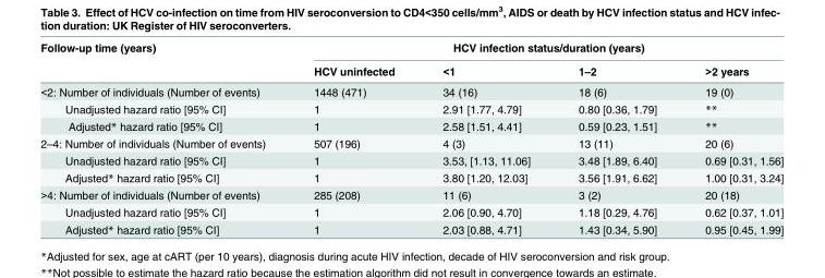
<table><thead><tr><td rowspan="2">Follow-up time (years)</td><td colspan="4">HCV infection status/duration (years)</td></tr><tr><td>HCV uninfected</td><td>&lt;1</td><td>1–2</td><td>&gt;2 years</td></tr></thead><tbody><tr><td>&lt;2: Number of individuals (Number of events)</td><td>1448 (471)</td><td>34 (16)</td><td>18 (6)</td><td>19 (0)</td></tr><tr><td>Unadjusted hazard ratio [95% CI]</td><td>1</td><td>2.91 [1.77, 4.79]</td><td>0.80 [0.36, 1.79]</td><td>**</td></tr><tr><td>Adjusted* hazard ratio [95% CI]</td><td>1</td><td>2.58 [1.51, 4.41]</td><td>0.59 [0.23, 1.51]</td><td>**</td></tr><tr><td>2–4: Number of individuals (Number of events)</td><td>507 (196)</td><td>4 (3)</td><td>13 (11)</td><td>20 (6)</td></tr><tr><td>Unadjusted hazard ratio [95% CI]</td><td>1</td><td>3.53, [1.13, 11.06]</td><td>3.48 [1.89, 6.40]</td><td>0.69 [0.31, 1.56]</td></tr><tr><td>Adjusted* hazard ratio [95% CI]</td><td>1</td><td>3.80 [1.20, 12.03]</td><td>3.56 [1.91, 6.62]</td><td>1.00 [0.31, 3.24]</td></tr><tr><td>&gt;4: Number of individuals (Number of events)</td><td>285 (208)</td><td>11 (6)</td><td>3 (2)</td><td>20 (18)</td></tr><tr><td>Unadjusted hazard ratio [95% CI]</td><td>1</td><td>2.06 [0.90, 4.70]</td><td>1.18 [0.29, 4.76]</td><td>0.62 [0.37, 1.01]</td></tr><tr><td>Adjusted* hazard ratio [95% CI]</td><td>1</td><td>2.03 [0.88, 4.71]</td><td>1.43 [0.34, 5.90]</td><td>0.95 [0.45, 1.99]</td></tr></tbody></table>